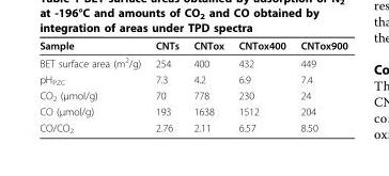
<table><thead><tr><td>Sample</td><td>CNTs</td><td>CNTox</td><td>CNTox400</td><td>CNTox900</td></tr></thead><tbody><tr><td>BET surface area (m<sup>2</sup>/g)</td><td>254</td><td>400</td><td>432</td><td>449</td></tr><tr><td>pH<sub>PZC</sub></td><td>7.3</td><td>4.2</td><td>6.9</td><td>7.4</td></tr><tr><td>CO<sub>2</sub> (μmol/g)</td><td>70</td><td>778</td><td>230</td><td>24</td></tr><tr><td>CO (μmol/g)</td><td>193</td><td>1638</td><td>1512</td><td>204</td></tr><tr><td>CO/CO<sub>2</sub></td><td>2.76</td><td>2.11</td><td>6.57</td><td>8.50</td></tr></tbody></table>